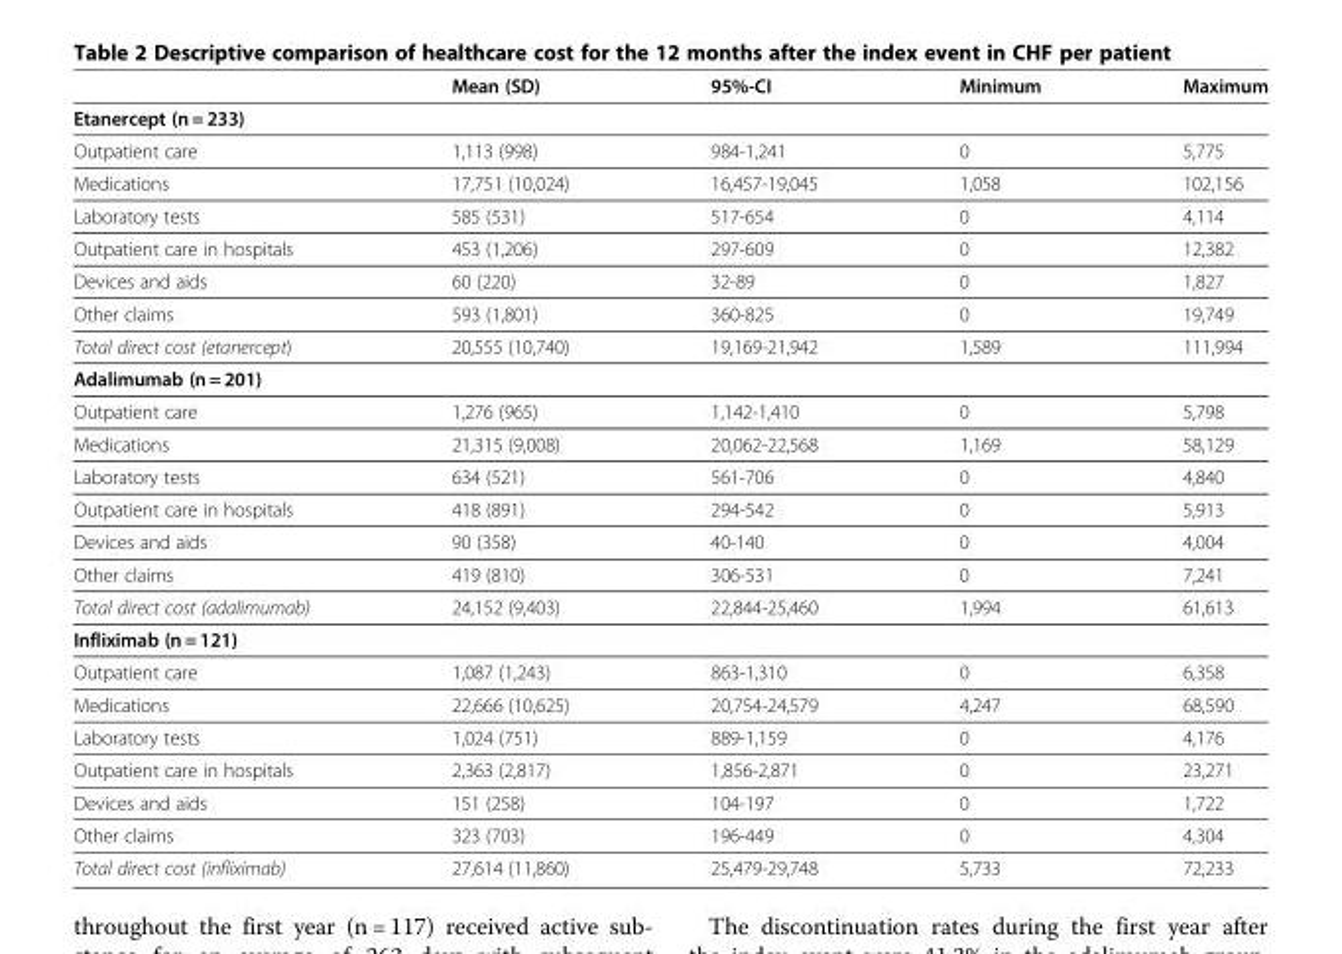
<table><thead><tr><td></td><td>Mean (SD)</td><td>95%-CI</td><td>Minimum</td><td>Maximum</td></tr></thead><tbody><tr><td colspan="5">Etanercept (n = 233)</td></tr><tr><td>Outpatient care</td><td>1,113 (998)</td><td>984-1,241</td><td>0</td><td>5,775</td></tr><tr><td>Medications</td><td>17,751 (10,024)</td><td>16,457-19,045</td><td>1,058</td><td>102,156</td></tr><tr><td>Laboratory tests</td><td>585 (531)</td><td>517-654</td><td>0</td><td>4,114</td></tr><tr><td>Outpatient care in hospitals</td><td>453 (1,206)</td><td>297-609</td><td>0</td><td>12,382</td></tr><tr><td>Devices and aids</td><td>60 (220)</td><td>32-89</td><td>0</td><td>1,827</td></tr><tr><td>Other claims</td><td>593 (1,801)</td><td>360-825</td><td>0</td><td>19,749</td></tr><tr><td>Total direct cost (etanercept)</td><td>20,555 (10,740)</td><td>19,169-21,942</td><td>1,589</td><td>111,994</td></tr><tr><td colspan="5">Adalimumab (n = 201)</td></tr><tr><td>Outpatient care</td><td>1,276 (965)</td><td>1,142-1,410</td><td>0</td><td>5,798</td></tr><tr><td>Medications</td><td>21,315 (9,008)</td><td>20,062-22,568</td><td>1,169</td><td>58,129</td></tr><tr><td>Laboratory tests</td><td>634 (521)</td><td>561-706</td><td>0</td><td>4,840</td></tr><tr><td>Outpatient care in hospitals</td><td>418 (891)</td><td>294-542</td><td>0</td><td>5,913</td></tr><tr><td>Devices and aids</td><td>90 (358)</td><td>40-140</td><td>0</td><td>4,004</td></tr><tr><td>Other claims</td><td>419 (810)</td><td>306-531</td><td>0</td><td>7,241</td></tr><tr><td>Total direct cost (adalimumab)</td><td>24,152 (9,403)</td><td>22,844-25,460</td><td>1,994</td><td>61,613</td></tr><tr><td colspan="5">Infliximab (n = 121)</td></tr><tr><td>Outpatient care</td><td>1,087 (1,243)</td><td>863-1,310</td><td>0</td><td>6,358</td></tr><tr><td>Medications</td><td>22,666 (10,625)</td><td>20,754-24,579</td><td>4,247</td><td>68,590</td></tr><tr><td>Laboratory tests</td><td>1,024 (751)</td><td>889-1,159</td><td>0</td><td>4,176</td></tr><tr><td>Outpatient care in hospitals</td><td>2,363 (2,817)</td><td>1,856-2,871</td><td>0</td><td>23,271</td></tr><tr><td>Devices and aids</td><td>151 (258)</td><td>104-197</td><td>0</td><td>1,722</td></tr><tr><td>Other claims</td><td>323 (703)</td><td>196-449</td><td>0</td><td>4,304</td></tr><tr><td>Total direct cost (infliximab)</td><td>27,614 (11,860)</td><td>25,479-29,748</td><td>5,733</td><td>72,233</td></tr></tbody></table>